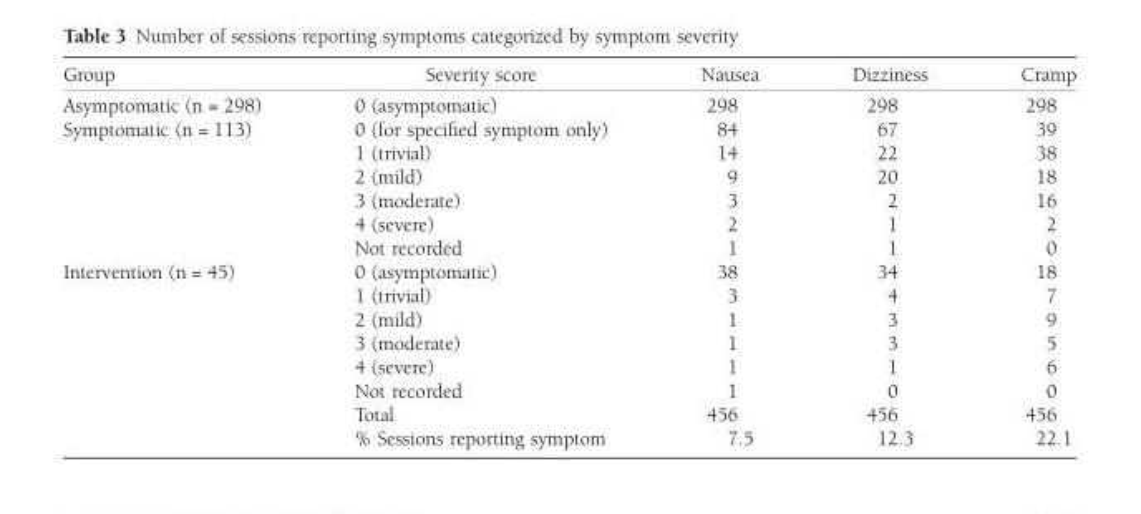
<table><thead><tr><td>Group</td><td>Severity score</td><td>Nausea</td><td>Dizziness</td><td>Cramp</td></tr></thead><tbody><tr><td>Asymptomatic (n = 298)</td><td>0 (asymptomatic)</td><td>298</td><td>298</td><td>298</td></tr><tr><td rowspan="6">Symptomatic (n = 113)</td><td>0 (for specified symptom only)</td><td>84</td><td>67</td><td>39</td></tr><tr><td>1 (trivial)</td><td>14</td><td>22</td><td>38</td></tr><tr><td>2 (mild)</td><td>9</td><td>20</td><td>18</td></tr><tr><td>3 (moderate)</td><td>3</td><td>2</td><td>16</td></tr><tr><td>4 (severe)</td><td>2</td><td>1</td><td>2</td></tr><tr><td>Not recorded</td><td>1</td><td>1</td><td>0</td></tr><tr><td rowspan="8">Intervention (n = 45)</td><td>0 (asymptomatic)</td><td>38</td><td>34</td><td>18</td></tr><tr><td>1 (trivial)</td><td>3</td><td>4</td><td>7</td></tr><tr><td>2 (mild)</td><td>1</td><td>3</td><td>9</td></tr><tr><td>3 (moderate)</td><td>1</td><td>3</td><td>5</td></tr><tr><td>4 (severe)</td><td>1</td><td>1</td><td>6</td></tr><tr><td>Not recorded</td><td>1</td><td>0</td><td>0</td></tr><tr><td>Total</td><td>456</td><td>456</td><td>456</td></tr><tr><td>% Sessions reporting symptom</td><td>7.5</td><td>12.3</td><td>22.1</td></tr></tbody></table>